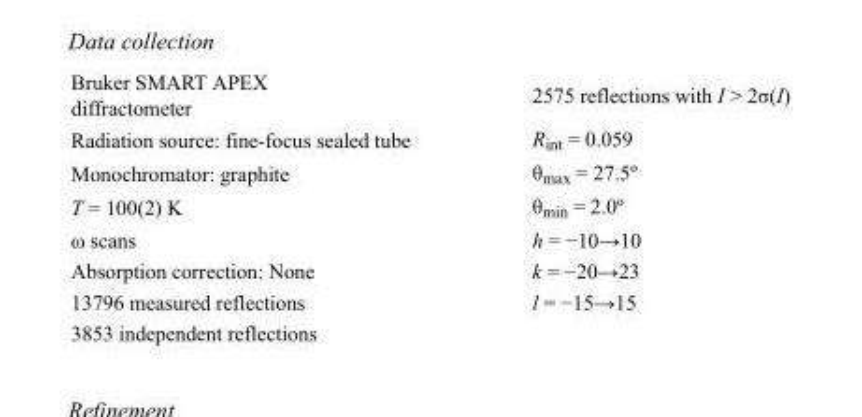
<table><tbody><tr><td>Bruker SMART APEX diffractometer</td><td>2575 reflections with I &gt; 2σ(I)</td></tr><tr><td>Radiation source: fine-focus sealed tube</td><td>R<sub>int</sub> = 0.059</td></tr><tr><td>Monochromator: graphite</td><td>θ<sub>max</sub> = 27.5º</td></tr><tr><td>T = 100(2) K</td><td>θ<sub>min</sub> = 2.0º</td></tr><tr><td>ω scans</td><td>h = −10→10</td></tr><tr><td>Absorption correction: None</td><td>k = −20→23</td></tr><tr><td>13796 measured reflections</td><td>l = −15→15</td></tr><tr><td>3853 independent reflections</td><td></td></tr></tbody></table>